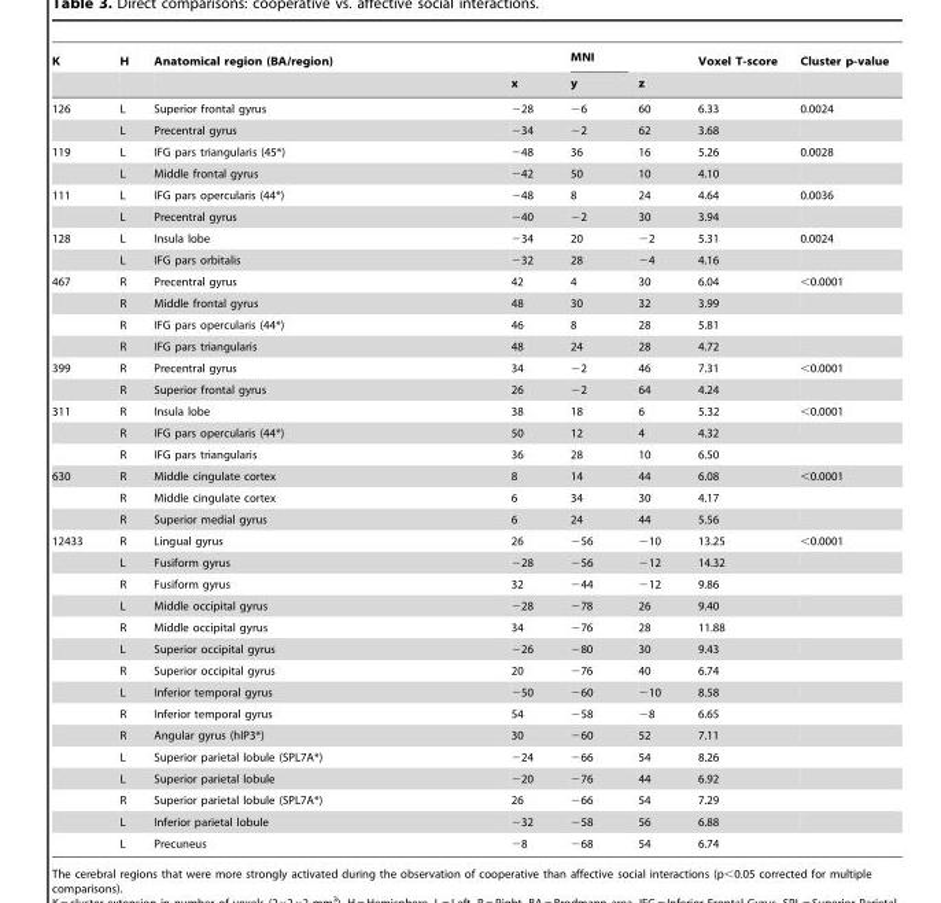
<table><thead><tr><td rowspan="2">K</td><td rowspan="2">H</td><td rowspan="2">Anatomical region (BA/region)</td><td rowspan="2">x</td><td rowspan="2">MNI y</td><td rowspan="2">z</td><td rowspan="2">Voxel T-score</td><td rowspan="2">Cluster p-value</td></tr><tr></tr></thead><tbody><tr><td rowspan="2">126</td><td>L</td><td>Superior frontal gyrus</td><td>−28</td><td>−6</td><td>60</td><td>6.33</td><td>0.0024</td></tr><tr><td>L</td><td>Precentral gyrus</td><td>−34</td><td>−2</td><td>62</td><td>3.68</td><td></td></tr><tr><td rowspan="2">119</td><td>L</td><td>IFG pars triangularis (45*)</td><td>−48</td><td>36</td><td>16</td><td>5.26</td><td>0.0028</td></tr><tr><td>L</td><td>Middle frontal gyrus</td><td>−42</td><td>50</td><td>10</td><td>4.10</td><td></td></tr><tr><td rowspan="2">111</td><td>L</td><td>IFG pars opercularis (44*)</td><td>−48</td><td>8</td><td>24</td><td>4.64</td><td>0.0036</td></tr><tr><td>L</td><td>Precentral gyrus</td><td>−40</td><td>−2</td><td>30</td><td>3.94</td><td></td></tr><tr><td rowspan="2">128</td><td>L</td><td>Insula lobe</td><td>−34</td><td>20</td><td>−2</td><td>5.31</td><td>0.0024</td></tr><tr><td>L</td><td>IFG pars orbitalis</td><td>−32</td><td>28</td><td>−4</td><td>4.16</td><td></td></tr><tr><td rowspan="4">467</td><td>R</td><td>Precentral gyrus</td><td>42</td><td>4</td><td>30</td><td>6.04</td><td>&lt;0.0001</td></tr><tr><td>R</td><td>Middle frontal gyrus</td><td>48</td><td>30</td><td>32</td><td>3.99</td><td></td></tr><tr><td>R</td><td>IFG pars opercularis (44*)</td><td>46</td><td>8</td><td>28</td><td>5.81</td><td></td></tr><tr><td>R</td><td>IFG pars triangularis</td><td>48</td><td>24</td><td>28</td><td>4.72</td><td></td></tr><tr><td rowspan="2">399</td><td>R</td><td>Precentral gyrus</td><td>34</td><td>−2</td><td>46</td><td>7.31</td><td>&lt;0.0001</td></tr><tr><td>R</td><td>Superior frontal gyrus</td><td>26</td><td>−2</td><td>64</td><td>4.24</td><td></td></tr><tr><td rowspan="3">311</td><td>R</td><td>Insula lobe</td><td>38</td><td>18</td><td>6</td><td>5.32</td><td>&lt;0.0001</td></tr><tr><td>R</td><td>IFG pars opercularis (44*)</td><td>50</td><td>12</td><td>4</td><td>4.32</td><td></td></tr><tr><td>R</td><td>IFG pars triangularis</td><td>36</td><td>28</td><td>10</td><td>6.50</td><td></td></tr><tr><td rowspan="3">630</td><td>R</td><td>Middle cingulate cortex</td><td>8</td><td>14</td><td>44</td><td>6.08</td><td>&lt;0.0001</td></tr><tr><td>R</td><td>Middle cingulate cortex</td><td>6</td><td>34</td><td>30</td><td>4.17</td><td></td></tr><tr><td>R</td><td>Superior medial gyrus</td><td>6</td><td>24</td><td>44</td><td>5.56</td><td></td></tr><tr><td rowspan="15">12433</td><td>R</td><td>Lingual gyrus</td><td>26</td><td>−56</td><td>−10</td><td>13.25</td><td>&lt;0.0001</td></tr><tr><td>L</td><td>Fusiform gyrus</td><td>−28</td><td>−56</td><td>−12</td><td>14.32</td><td></td></tr><tr><td>R</td><td>Fusiform gyrus</td><td>32</td><td>−44</td><td>−12</td><td>9.86</td><td></td></tr><tr><td>L</td><td>Middle occipital gyrus</td><td>−28</td><td>−78</td><td>26</td><td>9.40</td><td></td></tr><tr><td>R</td><td>Middle occipital gyrus</td><td>34</td><td>−76</td><td>28</td><td>11.88</td><td></td></tr><tr><td>L</td><td>Superior occipital gyrus</td><td>−26</td><td>−80</td><td>30</td><td>9.43</td><td></td></tr><tr><td>R</td><td>Superior occipital gyrus</td><td>20</td><td>−76</td><td>40</td><td>6.74</td><td></td></tr><tr><td>L</td><td>Inferior temporal gyrus</td><td>−50</td><td>−60</td><td>−10</td><td>8.58</td><td></td></tr><tr><td>R</td><td>Inferior temporal gyrus</td><td>54</td><td>−58</td><td>−8</td><td>6.65</td><td></td></tr><tr><td>R</td><td>Angular gyrus (hIP3*)</td><td>30</td><td>−60</td><td>52</td><td>7.11</td><td></td></tr><tr><td>L</td><td>Superior parietal lobule (SPL7A*)</td><td>−24</td><td>−66</td><td>54</td><td>8.26</td><td></td></tr><tr><td>L</td><td>Superior parietal lobule</td><td>−20</td><td>−76</td><td>44</td><td>6.92</td><td></td></tr><tr><td>R</td><td>Superior parietal lobule (SPL7A*)</td><td>26</td><td>−66</td><td>54</td><td>7.29</td><td></td></tr><tr><td>L</td><td>Inferior parietal lobule</td><td>−32</td><td>−58</td><td>56</td><td>6.88</td><td></td></tr><tr><td>L</td><td>Precuneus</td><td>−8</td><td>−68</td><td>54</td><td>6.74</td><td></td></tr></tbody></table>